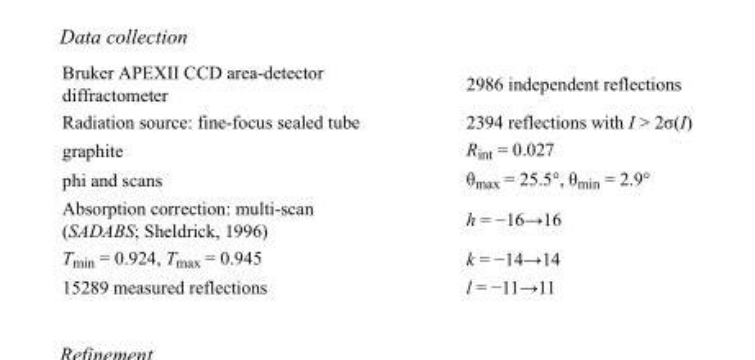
<table><tbody><tr><td>Bruker APEXII CCD area-detector diffractometer</td><td>2986 independent reflections</td></tr><tr><td>Radiation source: fine-focus sealed tube</td><td>2394 reflections with I &gt; 2σ(I)</td></tr><tr><td>graphite</td><td>R<sub>int</sub> = 0.027</td></tr><tr><td>phi and scans</td><td>θ<sub>max</sub> = 25.5°, θ<sub>min</sub> = 2.9°</td></tr><tr><td>Absorption correction: multi-scan (SADABS; Sheldrick, 1996)</td><td>h = −16→16</td></tr><tr><td>T<sub>min</sub> = 0.924, T<sub>max</sub> = 0.945</td><td>k = −14→14</td></tr><tr><td>15289 measured reflections</td><td>l = −11→11</td></tr></tbody></table>